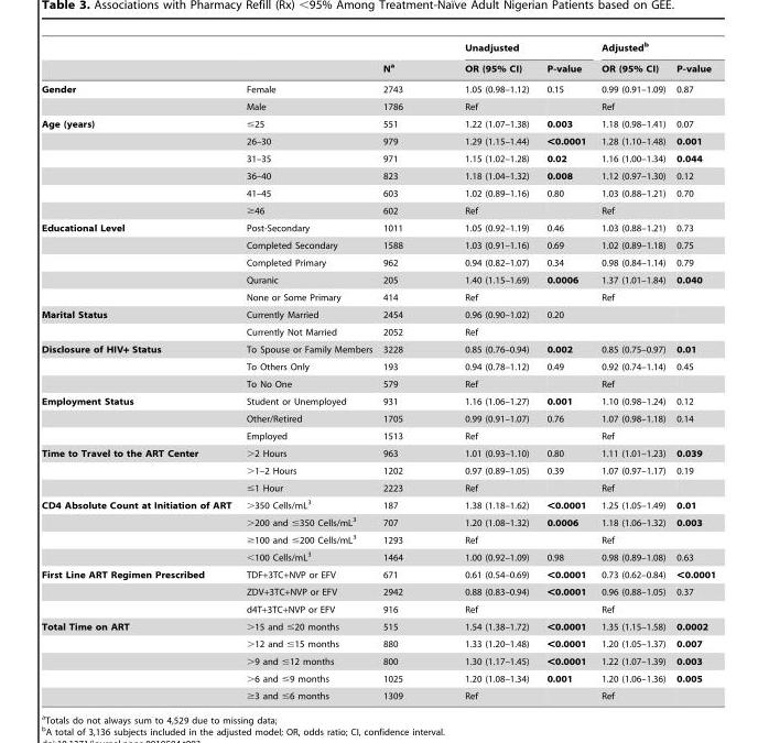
<table><thead><tr><td rowspan="2"></td><td rowspan="2"></td><td rowspan="2">N<sup>a</sup></td><td colspan="2">Unadjusted</td><td colspan="2">Adjusted<sup>b</sup></td></tr><tr><td>OR (95% CI)</td><td>P-value</td><td>OR (95% CI)</td><td>P-value</td></tr></thead><tbody><tr><td rowspan="2">Gender</td><td>Female</td><td>2743</td><td>1.05 (0.98–1.12)</td><td>0.15</td><td>0.99 (0.91–1.09)</td><td>0.87</td></tr><tr><td>Male</td><td>1786</td><td>Ref</td><td></td><td>Ref</td><td></td></tr><tr><td rowspan="6">Age (years)</td><td>≤25</td><td>551</td><td>1.22 (1.07–1.38)</td><td>0.003</td><td>1.18 (0.98–1.41)</td><td>0.07</td></tr><tr><td>26–30</td><td>979</td><td>1.29 (1.15–1.44)</td><td>&lt;0.0001</td><td>1.28 (1.10–1.48)</td><td>0.001</td></tr><tr><td>31–35</td><td>971</td><td>1.15 (1.02–1.28)</td><td>0.02</td><td>1.16 (1.00–1.34)</td><td>0.044</td></tr><tr><td>36–40</td><td>823</td><td>1.18 (1.04–1.32)</td><td>0.008</td><td>1.12 (0.97–1.30)</td><td>0.12</td></tr><tr><td>41–45</td><td>603</td><td>1.02 (0.89–1.16)</td><td>0.80</td><td>1.03 (0.88–1.21)</td><td>0.70</td></tr><tr><td>≥46</td><td>602</td><td>Ref</td><td></td><td>Ref</td><td></td></tr><tr><td rowspan="5">Educational Level</td><td>Post-Secondary</td><td>1011</td><td>1.05 (0.92–1.19)</td><td>0.46</td><td>1.03 (0.88–1.21)</td><td>0.73</td></tr><tr><td>Completed Secondary</td><td>1588</td><td>1.03 (0.91–1.16)</td><td>0.69</td><td>1.02 (0.89–1.18)</td><td>0.75</td></tr><tr><td>Completed Primary</td><td>962</td><td>0.94 (0.82–1.07)</td><td>0.34</td><td>0.98 (0.84–1.14)</td><td>0.79</td></tr><tr><td>Quranic</td><td>205</td><td>1.40 (1.15–1.69)</td><td>0.0006</td><td>1.37 (1.01–1.84)</td><td>0.040</td></tr><tr><td>None or Some Primary</td><td>414</td><td>Ref</td><td></td><td>Ref</td><td></td></tr><tr><td rowspan="2">Marital Status</td><td>Currently Married</td><td>2454</td><td>0.96 (0.90–1.02)</td><td>0.20</td><td></td><td></td></tr><tr><td>Currently Not Married</td><td>2052</td><td>Ref</td><td></td><td></td><td></td></tr><tr><td rowspan="3">Disclosure of HIV+ Status</td><td>To Spouse or Family Members</td><td>3228</td><td>0.85 (0.76–0.94)</td><td>0.002</td><td>0.85 (0.75–0.97)</td><td>0.01</td></tr><tr><td>To Others Only</td><td>193</td><td>0.94 (0.78–1.12)</td><td>0.49</td><td>0.92 (0.74–1.14)</td><td>0.45</td></tr><tr><td>To No One</td><td>579</td><td>Ref</td><td></td><td>Ref</td><td></td></tr><tr><td rowspan="3">Employment Status</td><td>Student or Unemployed</td><td>931</td><td>1.16 (1.06–1.27)</td><td>0.001</td><td>1.10 (0.98–1.24)</td><td>0.12</td></tr><tr><td>Other/Retired</td><td>1705</td><td>0.99 (0.91–1.07)</td><td>0.76</td><td>1.07 (0.98–1.18)</td><td>0.14</td></tr><tr><td>Employed</td><td>1513</td><td>Ref</td><td></td><td>Ref</td><td></td></tr><tr><td rowspan="3">Time to Travel to the ART Center</td><td>&gt;2 Hours</td><td>963</td><td>1.01 (0.93–1.10)</td><td>0.80</td><td>1.11 (1.01–1.23)</td><td>0.039</td></tr><tr><td>&gt;1–2 Hours</td><td>1202</td><td>0.97 (0.89–1.05)</td><td>0.39</td><td>1.07 (0.97–1.17)</td><td>0.19</td></tr><tr><td>≤1 Hour</td><td>2223</td><td>Ref</td><td></td><td>Ref</td><td></td></tr><tr><td rowspan="4">CD4 Absolute Count at Initiation of ART</td><td>&gt;350 Cells/mL<sup>3</sup></td><td>187</td><td>1.38 (1.18–1.62)</td><td>&lt;0.0001</td><td>1.25 (1.05–1.49)</td><td>0.01</td></tr><tr><td>&gt;200 and ≤350 Cells/mL<sup>3</sup></td><td>707</td><td>1.20 (1.08–1.32)</td><td>0.0006</td><td>1.18 (1.06–1.32)</td><td>0.003</td></tr><tr><td>≥100 and ≤200 Cells/mL<sup>3</sup></td><td>1293</td><td>Ref</td><td></td><td>Ref</td><td></td></tr><tr><td>&lt;100 Cells/mL<sup>3</sup></td><td>1464</td><td>1.00 (0.92–1.09)</td><td>0.98</td><td>0.98 (0.89–1.08)</td><td>0.63</td></tr><tr><td rowspan="3">First Line ART Regimen Prescribed</td><td>TDF+3TC+NVP or EFV</td><td>671</td><td>0.61 (0.54–0.69)</td><td>&lt;0.0001</td><td>0.73 (0.62–0.84)</td><td>&lt;0.0001</td></tr><tr><td>ZDV+3TC+NVP or EFV</td><td>2942</td><td>0.88 (0.83–0.94)</td><td>&lt;0.0001</td><td>0.96 (0.88–1.05)</td><td>0.37</td></tr><tr><td>d4T+3TC+NVP or EFV</td><td>916</td><td>Ref</td><td></td><td>Ref</td><td></td></tr><tr><td rowspan="5">Total Time on ART</td><td>&gt;15 and ≤20 months</td><td>515</td><td>1.54 (1.38–1.72)</td><td>&lt;0.0001</td><td>1.35 (1.15–1.58)</td><td>0.0002</td></tr><tr><td>&gt;12 and ≤15 months</td><td>880</td><td>1.33 (1.20–1.48)</td><td>&lt;0.0001</td><td>1.20 (1.05–1.37)</td><td>0.007</td></tr><tr><td>&gt;9 and ≤12 months</td><td>800</td><td>1.30 (1.17–1.45)</td><td>&lt;0.0001</td><td>1.22 (1.07–1.39)</td><td>0.003</td></tr><tr><td>&gt;6 and ≤9 months</td><td>1025</td><td>1.20 (1.08–1.34)</td><td>0.001</td><td>1.20 (1.06–1.36)</td><td>0.005</td></tr><tr><td>≥3 and ≤6 months</td><td>1309</td><td>Ref</td><td></td><td>Ref</td><td></td></tr></tbody></table>